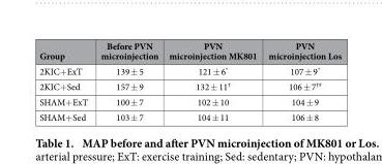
<table><thead><tr><td>Group</td><td>Before PVN microinjection</td><td>PVN microinjection MK801</td><td>PVN microinjection Los</td></tr></thead><tbody><tr><td>2KIC+ ExT</td><td>139 ± 5</td><td>121 ± 6*</td><td>107 ± 9*</td></tr><tr><td>2KIC+ Sed</td><td>157 ± 9</td><td>132 ± 11<sup>†</sup></td><td>106 ± 7<sup>†#</sup></td></tr><tr><td>SHAM+ ExT</td><td>100 ± 7</td><td>102 ± 10</td><td>104 ± 9</td></tr><tr><td>SHAM+ Sed</td><td>103 ± 7</td><td>104 ± 11</td><td>106 ± 8</td></tr></tbody></table>